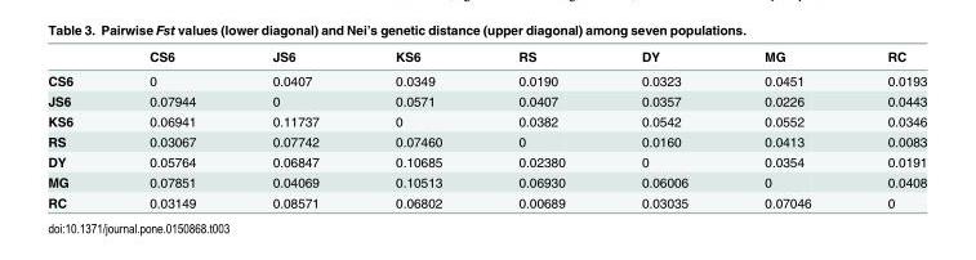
<table><thead><tr><td></td><td>CS6</td><td>JS6</td><td>KS6</td><td>RS</td><td>DY</td><td>MG</td><td>RC</td></tr></thead><tbody><tr><td>CS6</td><td>0</td><td>0.0407</td><td>0.0349</td><td>0.0190</td><td>0.0323</td><td>0.0451</td><td>0.0193</td></tr><tr><td>JS6</td><td>0.07944</td><td>0</td><td>0.0571</td><td>0.0407</td><td>0.0357</td><td>0.0226</td><td>0.0443</td></tr><tr><td>KS6</td><td>0.06941</td><td>0.11737</td><td>0</td><td>0.0382</td><td>0.0542</td><td>0.0552</td><td>0.0346</td></tr><tr><td>RS</td><td>0.03067</td><td>0.07742</td><td>0.07460</td><td>0</td><td>0.0160</td><td>0.0413</td><td>0.0083</td></tr><tr><td>DY</td><td>0.05764</td><td>0.06847</td><td>0.10685</td><td>0.02380</td><td>0</td><td>0.0354</td><td>0.0191</td></tr><tr><td>MG</td><td>0.07851</td><td>0.04069</td><td>0.10513</td><td>0.06930</td><td>0.06006</td><td>0</td><td>0.0408</td></tr><tr><td>RC</td><td>0.03149</td><td>0.08571</td><td>0.06802</td><td>0.00689</td><td>0.03035</td><td>0.07046</td><td>0</td></tr></tbody></table>